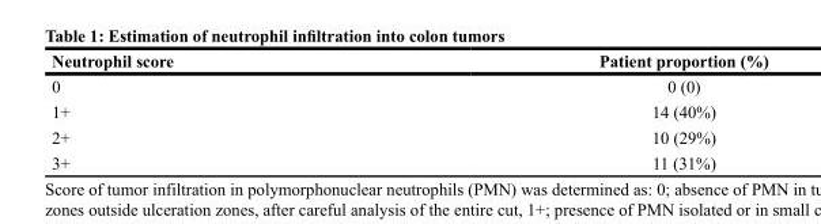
<table><thead><tr><td>Neutrophil score</td><td>Patient proportion (%)</td></tr></thead><tbody><tr><td>0</td><td>0 (0)</td></tr><tr><td>1+</td><td>14 (40%)</td></tr><tr><td>2+</td><td>10 (29%)</td></tr><tr><td>3+</td><td>11 (31%)</td></tr></tbody></table>